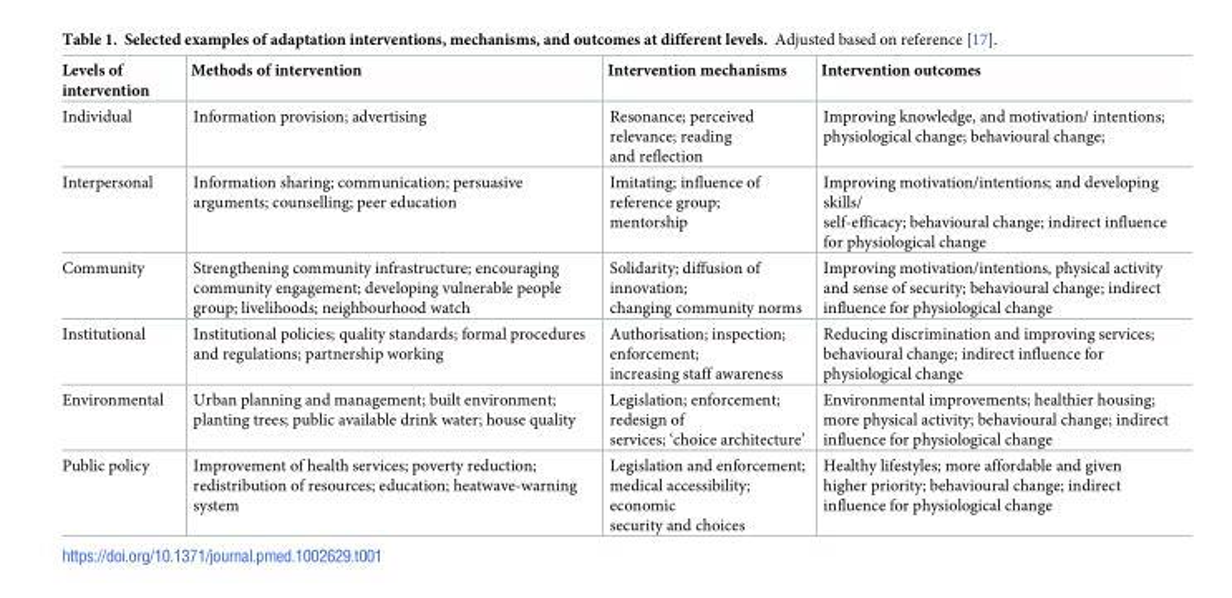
<table><thead><tr><td>Levels of intervention</td><td>Methods of intervention</td><td>Intervention mechanisms</td><td>Intervention outcomes</td></tr></thead><tbody><tr><td>Individual</td><td>Information provision; advertising</td><td>Resonance; perceived relevance; reading and reflection</td><td>Improving knowledge, and motivation/ intentions; physiological change; behavioural change;</td></tr><tr><td>Interpersonal</td><td>Information sharing; communication; persuasive arguments; counselling; peer education</td><td>Imitating; influence of reference group; mentorship</td><td>Improving motivation/intentions; and developing skills/ self-efficacy; behavioural change; indirect influence for physiological change</td></tr><tr><td>Community</td><td>Strengthening community infrastructure; encouraging community engagement; developing vulnerable people group; livelihoods; neighbourhood watch</td><td>Solidarity; diffusion of innovation; changing community norms</td><td>Improving motivation/intentions, physical activity and sense of security; behavioural change; indirect influence for physiological change</td></tr><tr><td>Institutional</td><td>Institutional policies; quality standards; formal procedures and regulations; partnership working</td><td>Authorisation; inspection; enforcement; increasing staff awareness</td><td>Reducing discrimination and improving services; behavioural change; indirect influence for physiological change</td></tr><tr><td>Environmental</td><td>Urban planning and management; built environment; planting trees; public available drink water; house quality</td><td>Legislation; enforcement; redesign of services; ‘choice architecture’</td><td>Environmental improvements; healthier housing; more physical activity; behavioural change; indirect influence for physiological change</td></tr><tr><td>Public policy</td><td>Improvement of health services; poverty reduction; redistribution of resources; education; heatwave-warning system</td><td>Legislation and enforcement; medical accessibility; economic security and choices</td><td>Healthy lifestyles; more affordable and given higher priority; behavioural change; indirect influence for physiological change</td></tr></tbody></table>